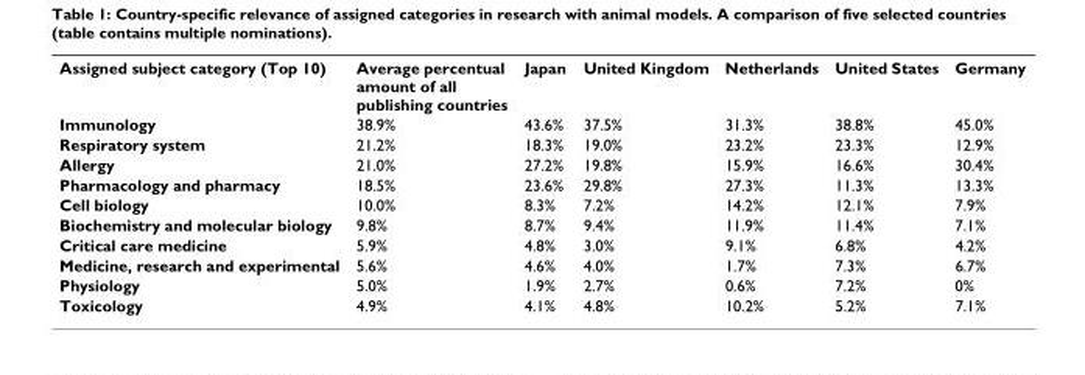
<table><tbody><tr><td>Assigned subject category (Top 10)</td><td>Average percentual amount of all publishing countries</td><td>Japan</td><td>United Kingdom</td><td>Netherlands</td><td>United States</td><td>Germany</td></tr><tr><td>Immunology</td><td>38.9%</td><td>43.6%</td><td>37.5%</td><td>31.3%</td><td>38.8%</td><td>45.0%</td></tr><tr><td>Respiratory system</td><td>21.2%</td><td>18.3%</td><td>19.0%</td><td>23.2%</td><td>23.3%</td><td>12.9%</td></tr><tr><td>Allergy</td><td>21.0%</td><td>27.2%</td><td>19.8%</td><td>15.9%</td><td>16.6%</td><td>30.4%</td></tr><tr><td>Pharmacology and pharmacy</td><td>18.5%</td><td>23.6%</td><td>29.8%</td><td>27.3%</td><td>11.3%</td><td>13.3%</td></tr><tr><td>Cell biology</td><td>10.0%</td><td>8.3%</td><td>7.2%</td><td>14.2%</td><td>12.1%</td><td>7.9%</td></tr><tr><td>Biochemistry and molecular biology</td><td>9.8%</td><td>8.7%</td><td>9.4%</td><td>11.9%</td><td>11.4%</td><td>7.1%</td></tr><tr><td>Critical care medicine</td><td>5.9%</td><td>4.8%</td><td>3.0%</td><td>9.1%</td><td>6.8%</td><td>4.2%</td></tr><tr><td>Medicine, research and experimental</td><td>5.6%</td><td>4.6%</td><td>4.0%</td><td>1.7%</td><td>7.3%</td><td>6.7%</td></tr><tr><td>Physiology</td><td>5.0%</td><td>1.9%</td><td>2.7%</td><td>0.6%</td><td>7.2%</td><td>0%</td></tr><tr><td>Toxicology</td><td>4.9%</td><td>4.1%</td><td>4.8%</td><td>10.2%</td><td>5.2%</td><td>7.1%</td></tr></tbody></table>